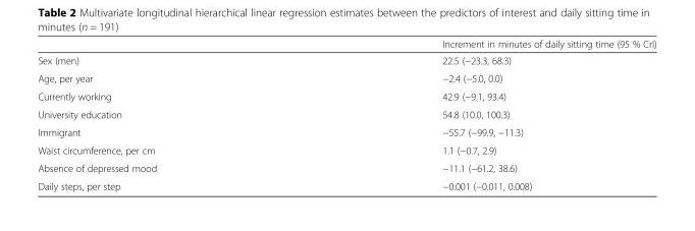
<table><thead><tr><td></td><td>Increment in minutes of daily sitting time (95 % CrI)</td></tr></thead><tbody><tr><td>Sex (men)</td><td>22.5 (−23.3, 68.3)</td></tr><tr><td>Age, per year</td><td>−2.4 (−5.0, 0.0)</td></tr><tr><td>Currently working</td><td>42.9 (−9.1, 93.4)</td></tr><tr><td>University education</td><td>54.8 (10.0, 100.3)</td></tr><tr><td>Immigrant</td><td>−55.7 (−99.9, −11.3)</td></tr><tr><td>Waist circumference, per cm</td><td>1.1 (−0.7, 2.9)</td></tr><tr><td>Absence of depressed mood</td><td>−11.1 (−61.2, 38.6)</td></tr><tr><td>Daily steps, per step</td><td>−0.001 (−0.011, 0.008)</td></tr></tbody></table>